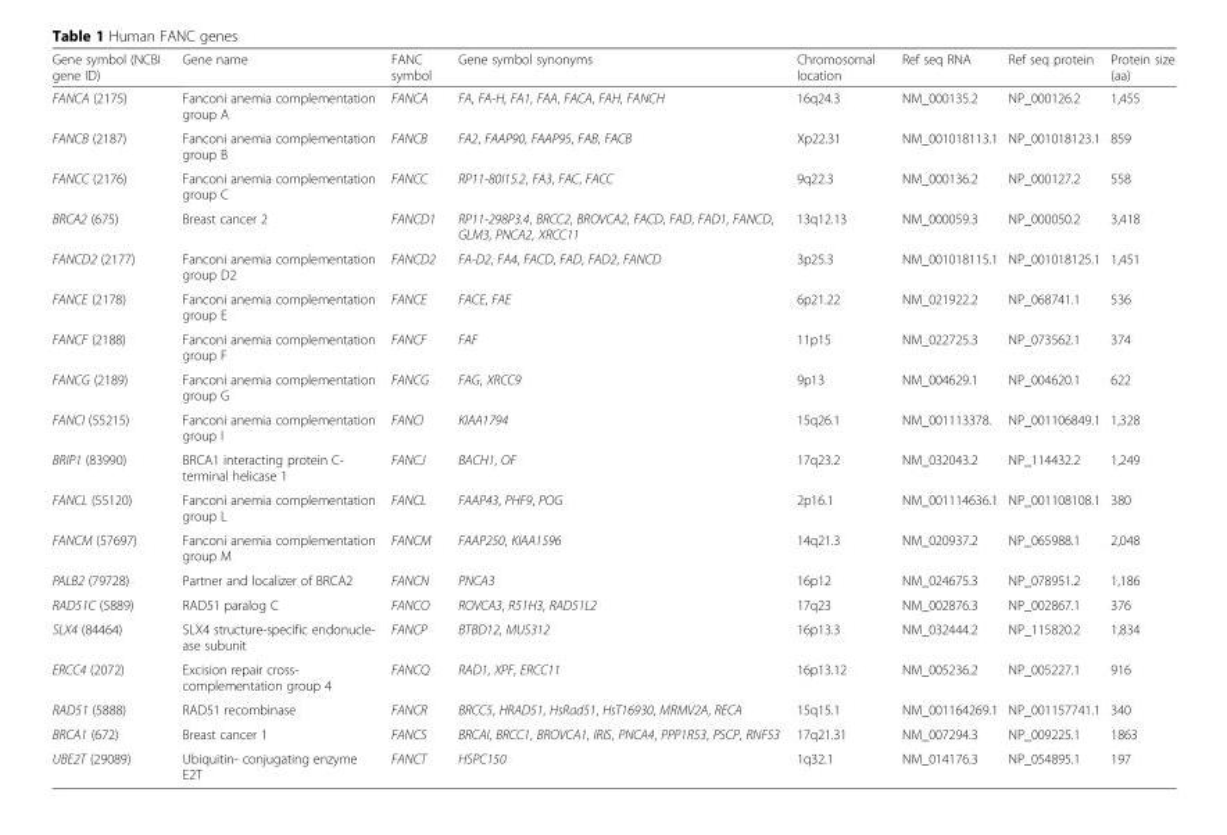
<table><thead><tr><td>Gene symbol (NCBI gene ID)</td><td>Gene name</td><td>FANC symbol</td><td>Gene symbol synonyms</td><td>Chromosomal location</td><td>Ref seq RNA</td><td>Ref seq protein</td><td>Protein size (aa)</td></tr></thead><tbody><tr><td>FANCA (2175)</td><td>Fanconi anemia complementation group A</td><td>FANCA</td><td>FA, FA-H, FA1, FAA, FACA, FAH, FANCH</td><td>16q24.3</td><td>NM_000135.2</td><td>NP_000126.2</td><td>1,455</td></tr><tr><td>FANCB (2187)</td><td>Fanconi anemia complementation group B</td><td>FANCB</td><td>FA2, FAAP90, FAAP95, FAB, FACB</td><td>Xp22.31</td><td>NM_001018113.1</td><td>NP_001018123.1</td><td>859</td></tr><tr><td>FANCC (2176)</td><td>Fanconi anemia complementation group C</td><td>FANCC</td><td>RP11-80I15.2, FA3, FAC, FACC</td><td>9q22.3</td><td>NM_000136.2</td><td>NP_000127.2</td><td>558</td></tr><tr><td>BRCA2 (675)</td><td>Breast cancer 2</td><td>FANCD1</td><td>RP11-298P3.4, BRCC2, BROVCA2, FACD, FAD, FAD1, FANCD, GLM3, PNCA2, XRCC11</td><td>13q12.13</td><td>NM_000059.3</td><td>NP_000050.2</td><td>3,418</td></tr><tr><td>FANCD2 (2177)</td><td>Fanconi anemia complementation group D2</td><td>FANCD2</td><td>FA-D2, FA4, FACD, FAD, FAD2, FANCD</td><td>3p25.3</td><td>NM_001018115.1</td><td>NP_001018125.1</td><td>1,451</td></tr><tr><td>FANCE (2178)</td><td>Fanconi anemia complementation group E</td><td>FANCE</td><td>FACE, FAE</td><td>6p21.22</td><td>NM_021922.2</td><td>NP_068741.1</td><td>536</td></tr><tr><td>FANCF (2188)</td><td>Fanconi anemia complementation group F</td><td>FANCF</td><td>FAF</td><td>11p15</td><td>NM_022725.3</td><td>NP_073562.1</td><td>374</td></tr><tr><td>FANCG (2189)</td><td>Fanconi anemia complementation group G</td><td>FANCG</td><td>FAG, XRCC9</td><td>9p13</td><td>NM_004629.1</td><td>NP_004620.1</td><td>622</td></tr><tr><td>FANCI (55215)</td><td>Fanconi anemia complementation group I</td><td>FANCI</td><td>KIAA1794</td><td>15q26.1</td><td>NM_001113378.</td><td>NP_001106849.1</td><td>1,328</td></tr><tr><td>BRIP1 (83990)</td><td>BRCA1 interacting protein C- terminal helicase 1</td><td>FANCJ</td><td>BACH1, OF</td><td>17q23.2</td><td>NM_032043.2</td><td>NP_114432.2</td><td>1,249</td></tr><tr><td>FANCL (55120)</td><td>Fanconi anemia complementation group L</td><td>FANCL</td><td>FAAP43, PHF9, POG</td><td>2p16.1</td><td>NM_001114636.1</td><td>NP_001108108.1</td><td>380</td></tr><tr><td>FANCM (57697)</td><td>Fanconi anemia complementation group M</td><td>FANCM</td><td>FAAP250, KIAA1596</td><td>14q21.3</td><td>NM_020937.2</td><td>NP_065988.1</td><td>2,048</td></tr><tr><td>PALB2 (79728)</td><td>Partner and localizer of BRCA2</td><td>FANCN</td><td>PNCA3</td><td>16p12</td><td>NM_024675.3</td><td>NP_078951.2</td><td>1,186</td></tr><tr><td>RAD51C (5889)</td><td>RAD51 paralog C</td><td>FANCO</td><td>ROVCA3, R51H3, RAD51L2</td><td>17q23</td><td>NM_002876.3</td><td>NP_002867.1</td><td>376</td></tr><tr><td>SLX4 (84464)</td><td>SLX4 structure-specific endonucle- ase subunit</td><td>FANCP</td><td>BTBD12, MUS312</td><td>16p13.3</td><td>NM_032444.2</td><td>NP_115820.2</td><td>1,834</td></tr><tr><td>ERCC4 (2072)</td><td>Excision repair cross- complementation group 4</td><td>FANCQ</td><td>RAD1, XPF, ERCC11</td><td>16p13.12</td><td>NM_005236.2</td><td>NP_005227.1</td><td>916</td></tr><tr><td>RAD51 (5888)</td><td>RAD51 recombinase</td><td>FANCR</td><td>BRCC5, HRAD51, HsRad51, HsT16930, MRMV2A, RECA</td><td>15q15.1</td><td>NM_001164269.1</td><td>NP_001157741.1</td><td>340</td></tr><tr><td>BRCA1 (672)</td><td>Breast cancer 1</td><td>FANCS</td><td>BRCAI, BRCC1, BROVCA1, IRIS, PNCA4, PPP1R53, PSCP, RNF53</td><td>17q21.31</td><td>NM_007294.3</td><td>NP_009225.1</td><td>1863</td></tr><tr><td>UBE2T (29089)</td><td>Ubiquitin- conjugating enzyme E2T</td><td>FANCT</td><td>HSPC150</td><td>1q32.1</td><td>NM_014176.3</td><td>NP_054895.1</td><td>197</td></tr></tbody></table>